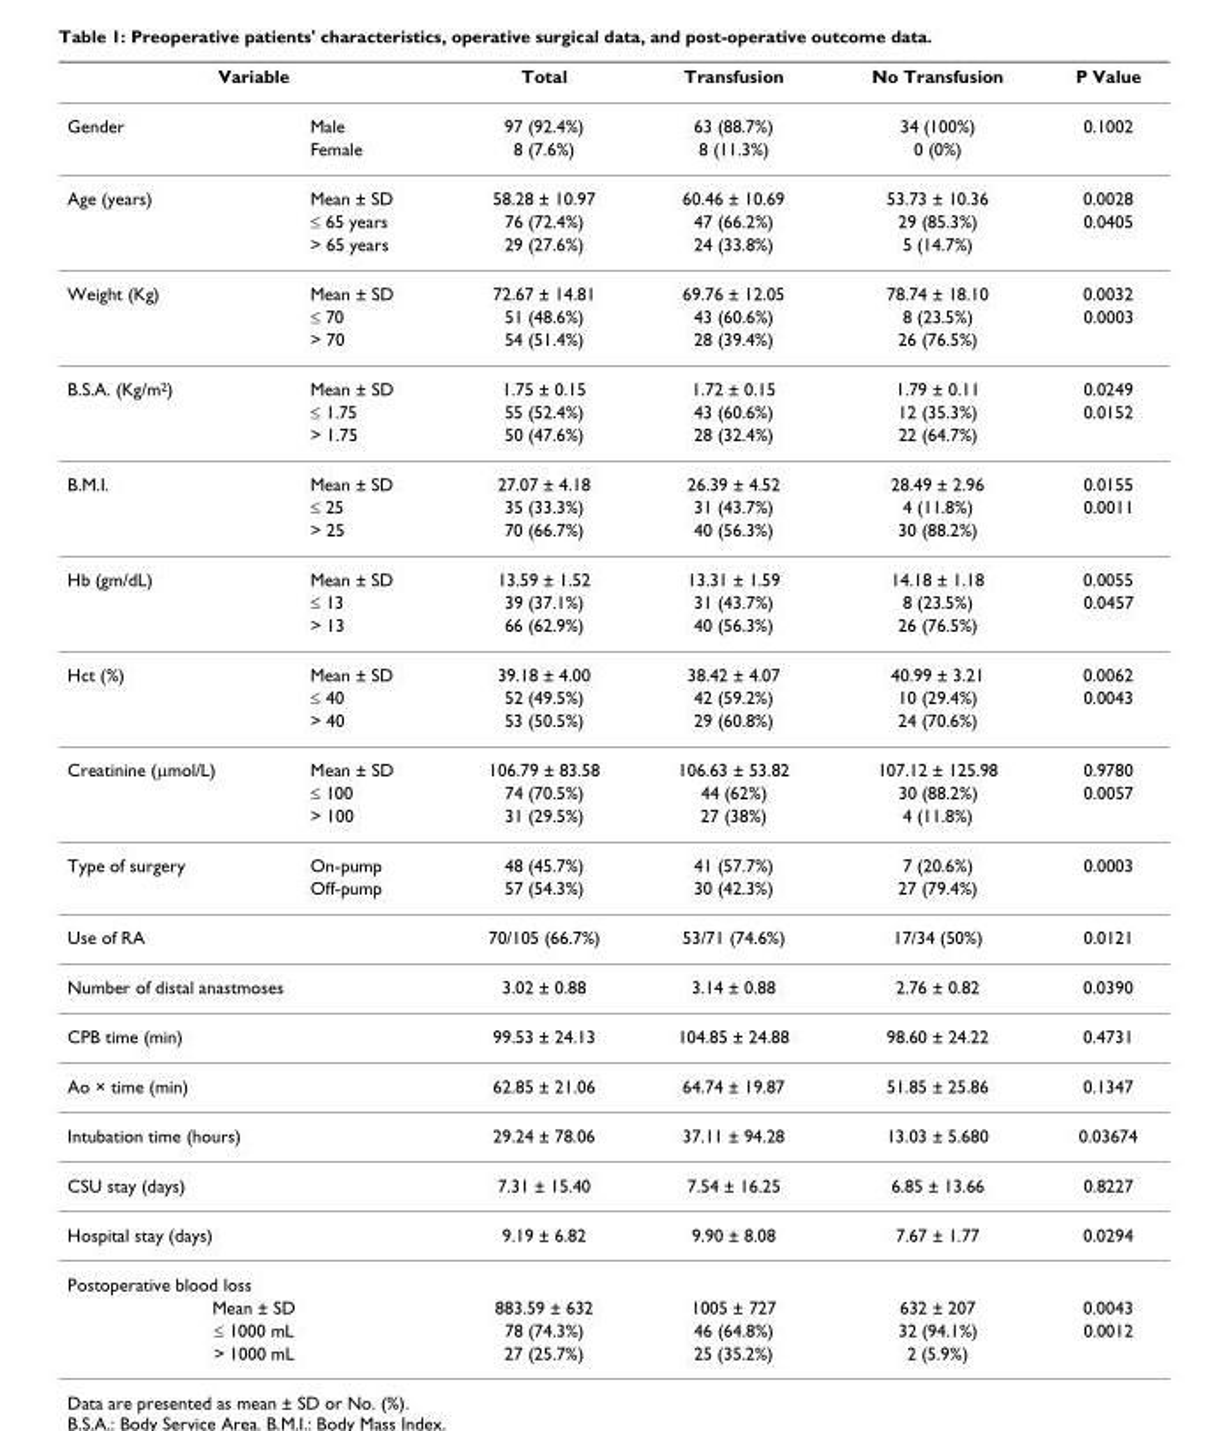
<table><thead><tr><td colspan="2">Variable</td><td rowspan="2">Total 97 (92.4%)</td><td rowspan="2">Transfusion 63 (88.7%)</td><td rowspan="2">No Transfusion 34 (100%)</td><td rowspan="2">P Value 0.1002</td></tr><tr><td>Gender</td><td>Male</td></tr></thead><tbody><tr><td></td><td>Female</td><td>8 (7.6%)</td><td>8 (11.3%)</td><td>0 (0%)</td><td></td></tr><tr><td rowspan="3">Age (years)</td><td>Mean ± SD</td><td>58.28 ± 10.97</td><td>60.46 ± 10.69</td><td>53.73 ± 10.36</td><td>0.0028</td></tr><tr><td>≤ 65 years</td><td>76 (72.4%)</td><td>47 (66.2%)</td><td>29 (85.3%)</td><td>0.0405</td></tr><tr><td>&gt; 65 years</td><td>29 (27.6%)</td><td>24 (33.8%)</td><td>5 (14.7%)</td><td></td></tr><tr><td rowspan="3">Weight (Kg)</td><td>Mean ± SD</td><td>72.67 ± 14.81</td><td>69.76 ± 12.05</td><td>78.74 ± 18.10</td><td>0.0032</td></tr><tr><td>≤ 70</td><td>51 (48.6%)</td><td>43 (60.6%)</td><td>8 (23.5%)</td><td>0.0003</td></tr><tr><td>&gt; 70</td><td>54 (51.4%)</td><td>28 (39.4%)</td><td>26 (76.5%)</td><td></td></tr><tr><td rowspan="3">B.S.A. (Kg/m<sup>2</sup>)</td><td>Mean ± SD</td><td>1.75 ± 0.15</td><td>1.72 ± 0.15</td><td>1.79 ± 0.11</td><td>0.0249</td></tr><tr><td>≤ 1.75</td><td>55 (52.4%)</td><td>43 (60.6%)</td><td>12 (35.3%)</td><td>0.0152</td></tr><tr><td>&gt; 1.75</td><td>50 (47.6%)</td><td>28 (32.4%)</td><td>22 (64.7%)</td><td></td></tr><tr><td rowspan="3">B.M.I.</td><td>Mean ± SD</td><td>27.07 ± 4.18</td><td>26.39 ± 4.52</td><td>28.49 ± 2.96</td><td>0.0155</td></tr><tr><td>≤ 25</td><td>35 (33.3%)</td><td>31 (43.7%)</td><td>4 (11.8%)</td><td>0.0011</td></tr><tr><td>&gt; 25</td><td>70 (66.7%)</td><td>40 (56.3%)</td><td>30 (88.2%)</td><td></td></tr><tr><td rowspan="3">Hb (gm/dL)</td><td>Mean ± SD</td><td>13.59 ± 1.52</td><td>13.31 ± 1.59</td><td>14.18 ± 1.18</td><td>0.0055</td></tr><tr><td>≤ 13</td><td>39 (37.1%)</td><td>31 (43.7%)</td><td>8 (23.5%)</td><td>0.0457</td></tr><tr><td>&gt; 13</td><td>66 (62.9%)</td><td>40 (56.3%)</td><td>26 (76.5%)</td><td></td></tr><tr><td rowspan="3">Hct (%)</td><td>Mean ± SD</td><td>39.18 ± 4.00</td><td>38.42 ± 4.07</td><td>40.99 ± 3.21</td><td>0.0062</td></tr><tr><td>≤ 40</td><td>52 (49.5%)</td><td>42 (59.2%)</td><td>10 (29.4%)</td><td>0.0043</td></tr><tr><td>&gt; 40</td><td>53 (50.5%)</td><td>29 (60.8%)</td><td>24 (70.6%)</td><td></td></tr><tr><td rowspan="3">Creatinine (μmol/L)</td><td>Mean ± SD</td><td>106.79 ± 83.58</td><td>106.63 ± 53.82</td><td>107.12 ± 125.98</td><td>0.9780</td></tr><tr><td>≤ 100</td><td>74 (70.5%)</td><td>44 (62%)</td><td>30 (88.2%)</td><td>0.0057</td></tr><tr><td>&gt; 100</td><td>31 (29.5%)</td><td>27 (38%)</td><td>4 (11.8%)</td><td></td></tr><tr><td rowspan="2">Type of surgery</td><td>On-pump</td><td>48 (45.7%)</td><td>41 (57.7%)</td><td>7 (20.6%)</td><td>0.0003</td></tr><tr><td>Off-pump</td><td>57 (54.3%)</td><td>30 (42.3%)</td><td>27 (79.4%)</td><td></td></tr><tr><td colspan="2">Use of RA</td><td>70/105 (66.7%)</td><td>53/71 (74.6%)</td><td>17/34 (50%)</td><td>0.0121</td></tr><tr><td colspan="2">Number of distal anastmoses</td><td>3.02 ± 0.88</td><td>3.14 ± 0.88</td><td>2.76 ± 0.82</td><td>0.0390</td></tr><tr><td colspan="2">CPB time (min)</td><td>99.53 ± 24.13</td><td>104.85 ± 24.88</td><td>98.60 ± 24.22</td><td>0.4731</td></tr><tr><td colspan="2">Ao × time (min)</td><td>62.85 ± 21.06</td><td>64.74 ± 19.87</td><td>51.85 ± 25.86</td><td>0.1347</td></tr><tr><td colspan="2">Intubation time (hours)</td><td>29.24 ± 78.06</td><td>37.11 ± 94.28</td><td>13.03 ± 5.680</td><td>0.03674</td></tr><tr><td colspan="2">CSU stay (days)</td><td>7.31 ± 15.40</td><td>7.54 ± 16.25</td><td>6.85 ± 13.66</td><td>0.8227</td></tr><tr><td colspan="2">Hospital stay (days)</td><td>9.19 ± 6.82</td><td>9.90 ± 8.08</td><td>7.67 ± 1.77</td><td>0.0294</td></tr><tr><td colspan="6">Postoperative blood loss</td></tr><tr><td colspan="2">Mean ± SD</td><td>883.59 ± 632</td><td>1005 ± 727</td><td>632 ± 207</td><td>0.0043</td></tr><tr><td colspan="2">≤ 1000 mL</td><td>78 (74.3%)</td><td>46 (64.8%)</td><td>32 (94.1%)</td><td>0.0012</td></tr><tr><td colspan="2">&gt; 1000 mL</td><td>27 (25.7%)</td><td>25 (35.2%)</td><td>2 (5.9%)</td><td></td></tr></tbody></table>